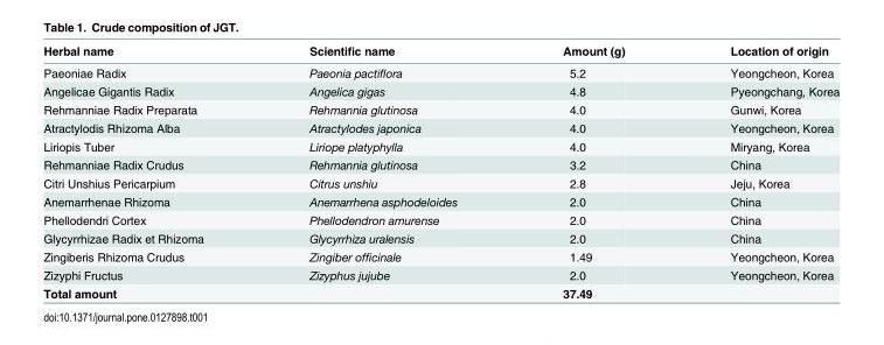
<table><thead><tr><td>Herbal name</td><td>Scientific name</td><td>Amount (g)</td><td>Location of origin</td></tr></thead><tbody><tr><td>Paeoniae Radix</td><td>Paeonia pactiflora</td><td>5.2</td><td>Yeongcheon, Korea</td></tr><tr><td>Angelicae Gigantis Radix</td><td>Angelica gigas</td><td>4.8</td><td>Pyeongchang, Korea</td></tr><tr><td>Rehmanniae Radix Preparata</td><td>Rehmannia glutinosa</td><td>4.0</td><td>Gunwi, Korea</td></tr><tr><td>Atractylodis Rhizoma Alba</td><td>Atractylodes japonica</td><td>4.0</td><td>Yeongcheon, Korea</td></tr><tr><td>Liriopis Tuber</td><td>Liriope platyphylla</td><td>4.0</td><td>Miryang, Korea</td></tr><tr><td>Rehmanniae Radix Crudus</td><td>Rehmannia glutinosa</td><td>3.2</td><td>China</td></tr><tr><td>Citri Unshius Pericarpium</td><td>Citrus unshiu</td><td>2.8</td><td>Jeju, Korea</td></tr><tr><td>Anemarrhenae Rhizoma</td><td>Anemarrhena asphodeloides</td><td>2.0</td><td>China</td></tr><tr><td>Phellodendri Cortex</td><td>Phellodendron amurense</td><td>2.0</td><td>China</td></tr><tr><td>Glycyrrhizae Radix et Rhizoma</td><td>Glycyrrhiza uralensis</td><td>2.0</td><td>China</td></tr><tr><td>Zingiberis Rhizoma Crudus</td><td>Zingiber officinale</td><td>1.49</td><td>Yeongcheon, Korea</td></tr><tr><td>Zizyphi Fructus</td><td>Zizyphus jujube</td><td>2.0</td><td>Yeongcheon, Korea</td></tr><tr><td>Total amount</td><td></td><td>37.49</td><td></td></tr></tbody></table>